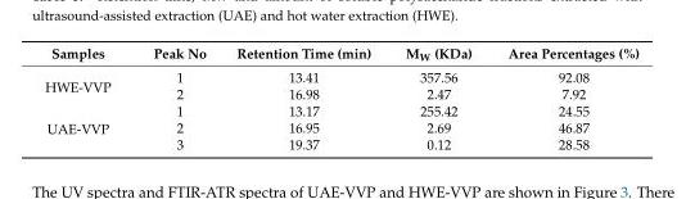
<table><thead><tr><td>Samples</td><td>Peak No</td><td>Retention Time (min)</td><td>M<sub>W</sub> (KDa)</td><td>Area Percentages (%)</td></tr></thead><tbody><tr><td rowspan="2">HWE-VVP</td><td>1</td><td>13.41</td><td>357.56</td><td>92.08</td></tr><tr><td>2</td><td>16.98</td><td>2.47</td><td>7.92</td></tr><tr><td rowspan="3">UAE-VVP</td><td>1</td><td>13.17</td><td>255.42</td><td>24.55</td></tr><tr><td>2</td><td>16.95</td><td>2.69</td><td>46.87</td></tr><tr><td>3</td><td>19.37</td><td>0.12</td><td>28.58</td></tr></tbody></table>